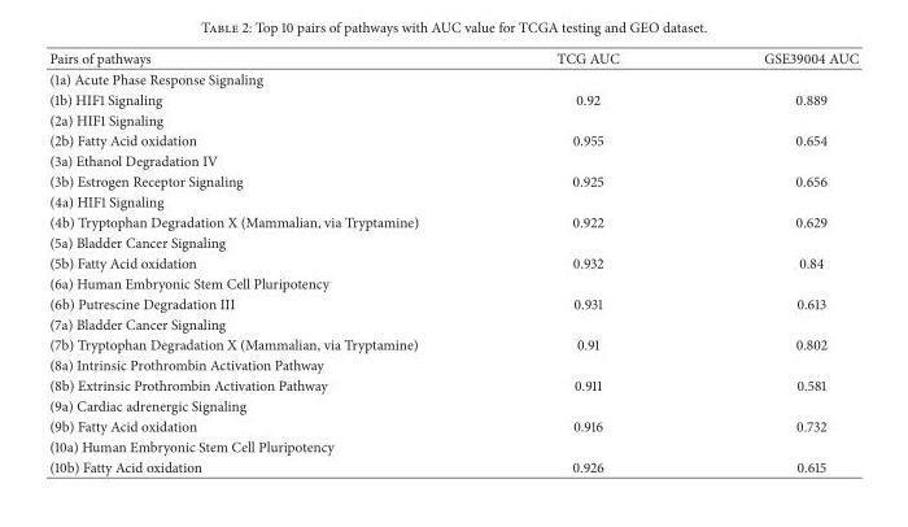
<table><thead><tr><td>Pairs of pathways</td><td>TCG AUC</td><td>GSE39004 AUC</td></tr></thead><tbody><tr><td colspan="3">(1a) Acute Phase Response Signaling</td></tr><tr><td>(1b) HIF1 Signaling</td><td>0.92</td><td>0.889</td></tr><tr><td colspan="3">(2a) HIF1 Signaling</td></tr><tr><td>(2b) Fatty Acid oxidation</td><td>0.955</td><td>0.654</td></tr><tr><td colspan="3">(3a) Ethanol Degradation IV</td></tr><tr><td>(3b) Estrogen Receptor Signaling</td><td>0.925</td><td>0.656</td></tr><tr><td colspan="3">(4a) HIF1 Signaling</td></tr><tr><td>(4b) Tryptophan Degradation X (Mammalian, via Tryptamine)</td><td>0.922</td><td>0.629</td></tr><tr><td colspan="3">(5a) Bladder Cancer Signaling</td></tr><tr><td>(5b) Fatty Acid oxidation</td><td>0.932</td><td>0.84</td></tr><tr><td colspan="3">(6a) Human Embryonic Stem Cell Pluripotency</td></tr><tr><td>(6b) Putrescine Degradation III</td><td>0.931</td><td>0.613</td></tr><tr><td colspan="3">(7a) Bladder Cancer Signaling</td></tr><tr><td>(7b) Tryptophan Degradation X (Mammalian, via Tryptamine)</td><td>0.91</td><td>0.802</td></tr><tr><td colspan="3">(8a) Intrinsic Prothrombin Activation Pathway</td></tr><tr><td>(8b) Extrinsic Prothrombin Activation Pathway</td><td>0.911</td><td>0.581</td></tr><tr><td colspan="3">(9a) Cardiac adrenergic Signaling</td></tr><tr><td>(9b) Fatty Acid oxidation</td><td>0.916</td><td>0.732</td></tr><tr><td colspan="3">(10a) Human Embryonic Stem Cell Pluripotency</td></tr><tr><td>(10b) Fatty Acid oxidation</td><td>0.926</td><td>0.615</td></tr></tbody></table>